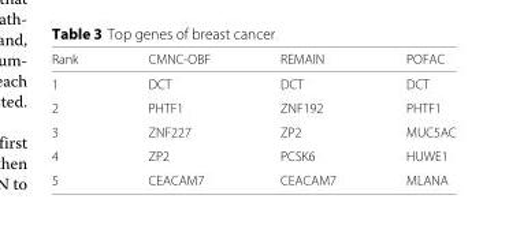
<table><thead><tr><td>Rank</td><td>CMNC-OBF</td><td>REMAIN</td><td>POFAC</td></tr></thead><tbody><tr><td>1</td><td>DCT</td><td>DCT</td><td>DCT</td></tr><tr><td>2</td><td>PHTF1</td><td>ZNF192</td><td>PHTF1</td></tr><tr><td>3</td><td>ZNF227</td><td>ZP2</td><td>MUC5AC</td></tr><tr><td>4</td><td>ZP2</td><td>PCSK6</td><td>HUWE1</td></tr><tr><td>5</td><td>CEACAM7</td><td>CEACAM7</td><td>MLANA</td></tr></tbody></table>